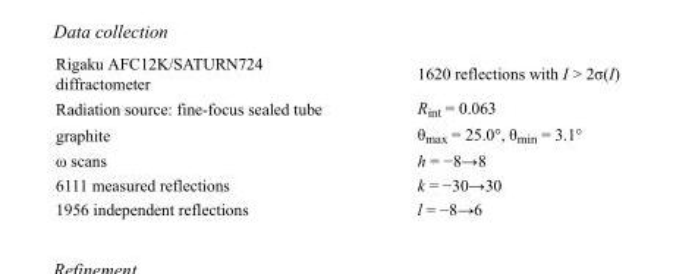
<table><tbody><tr><td>Rigaku AFC12K/SATURN724 diffractometer</td><td>1620 reflections with I &gt; 2σ(I)</td></tr><tr><td>Radiation source: fine-focus sealed tube</td><td>R<sub>int</sub> = 0.063</td></tr><tr><td>graphite</td><td>θ<sub>max</sub> = 25.0°, θ<sub>min</sub> = 3.1°</td></tr><tr><td>ω scans</td><td>h = −8→8</td></tr><tr><td>6111 measured reflections</td><td>k = −30→30</td></tr><tr><td>1956 independent reflections</td><td>l = −8→6</td></tr></tbody></table>